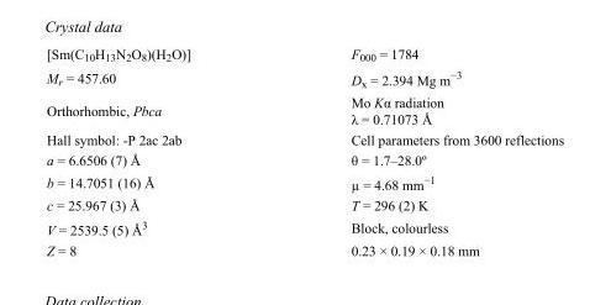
<table><tbody><tr><td>[Sm(C<sub>10</sub>H<sub>13</sub>N<sub>2</sub>O<sub>8</sub>)(H<sub>2</sub>O)]</td><td>F000 = 1784</td></tr><tr><td>M<sub>r</sub> = 457.60</td><td>D<sub>x</sub> = 2.394 Mg m<sup>−3</sup></td></tr><tr><td>Orthorhombic, Pbca</td><td>Mo Kα radiation λ = 0.71073 Å</td></tr><tr><td>Hall symbol: -P 2ac 2ab</td><td>Cell parameters from 3600 reflections</td></tr><tr><td>a = 6.6506 (7) Å</td><td>θ = 1.7–28.0º</td></tr><tr><td>b = 14.7051 (16) Å</td><td>µ = 4.68 mm<sup>−1</sup></td></tr><tr><td>c = 25.967 (3) Å</td><td>T = 296 (2) K</td></tr><tr><td>V = 2539.5 (5) Å<sup>3</sup></td><td>Block, colourless</td></tr><tr><td>Z = 8</td><td>0.23 × 0.19 × 0.18 mm</td></tr></tbody></table>